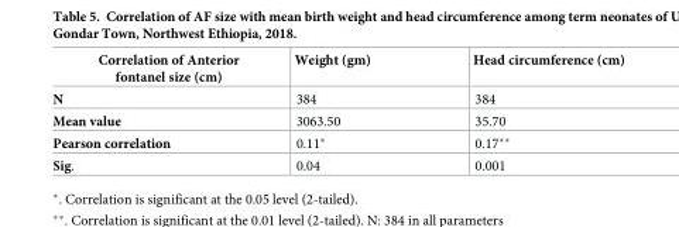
<table><thead><tr><td>Correlation of Anterior fontanel size (cm)</td><td>Weight (gm)</td><td>Head circumference (cm)</td></tr></thead><tbody><tr><td>N</td><td>384</td><td>384</td></tr><tr><td>Mean value</td><td>3063.50</td><td>35.70</td></tr><tr><td>Pearson correlation</td><td>0.11*</td><td>0.17**</td></tr><tr><td>Sig.</td><td>0.04</td><td>0.001</td></tr></tbody></table>